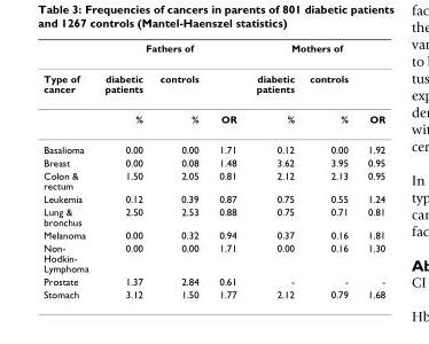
<table><thead><tr><td rowspan="2">Type of cancer</td><td colspan="3">Fathers of</td><td colspan="3">Mothers of</td></tr><tr><td>diabetic patients</td><td>controls</td><td></td><td>diabetic patients</td><td>controls</td><td></td></tr></thead><tbody><tr><td></td><td>%</td><td>%</td><td>OR</td><td>%</td><td>%</td><td>OR</td></tr><tr><td>Basalioma</td><td>0.00</td><td>0.00</td><td>1.71</td><td>0.12</td><td>0.00</td><td>1.92</td></tr><tr><td>Breast</td><td>0.00</td><td>0.08</td><td>1.48</td><td>3.62</td><td>3.95</td><td>0.95</td></tr><tr><td>Colon &amp; rectum</td><td>1.50</td><td>2.05</td><td>0.81</td><td>2.12</td><td>2.13</td><td>0.95</td></tr><tr><td>Leukemia</td><td>0.12</td><td>0.39</td><td>0.87</td><td>0.75</td><td>0.55</td><td>1.24</td></tr><tr><td>Lung &amp; bronchus</td><td>2.50</td><td>2.53</td><td>0.88</td><td>0.75</td><td>0.71</td><td>0.81</td></tr><tr><td>Melanoma</td><td>0.00</td><td>0.32</td><td>0.94</td><td>0.37</td><td>0.16</td><td>1.81</td></tr><tr><td>Non- Hodkin- Lymphoma</td><td>0.00</td><td>0.00</td><td>1.71</td><td>0.00</td><td>0.16</td><td>1.30</td></tr><tr><td>Prostate</td><td>1.37</td><td>2.84</td><td>0.61</td><td>-</td><td>-</td><td>-</td></tr><tr><td>Stomach</td><td>3.12</td><td>1.50</td><td>1.77</td><td>2.12</td><td>0.79</td><td>1.68</td></tr></tbody></table>